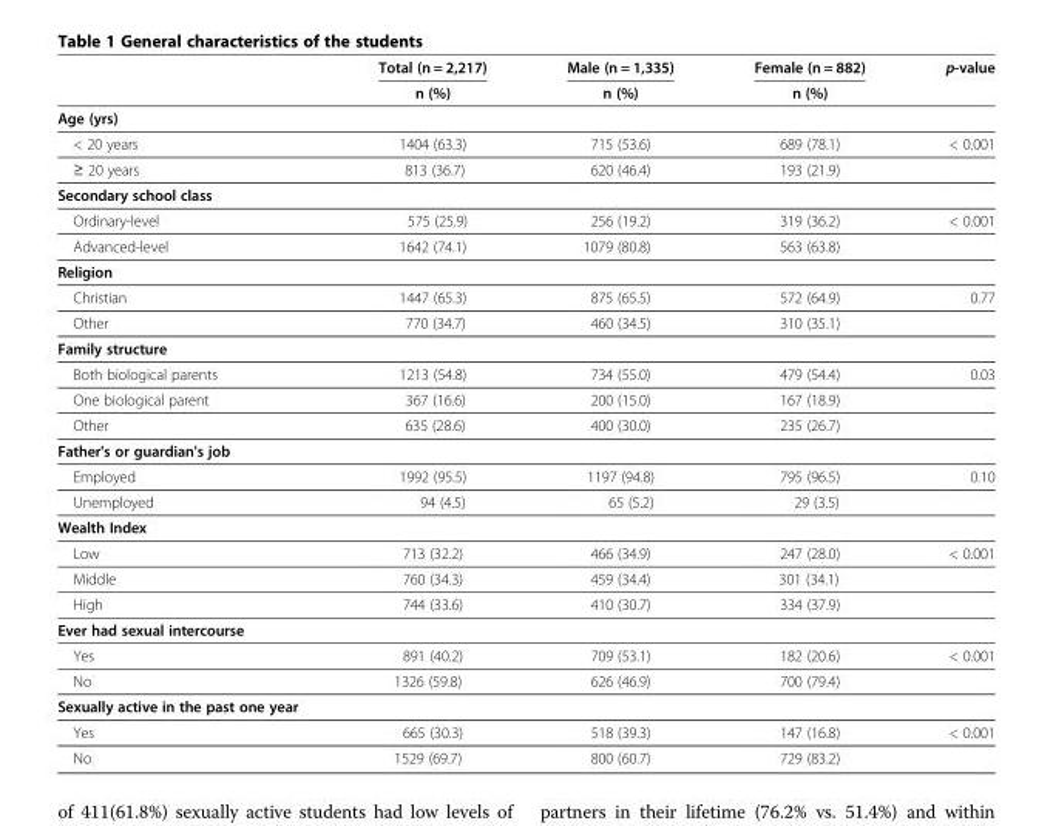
<table><thead><tr><td rowspan="2"></td><td rowspan="2">Total (n = 2,217) n (%)</td><td rowspan="2">Male (n = 1,335) n (%)</td><td rowspan="2">Female (n = 882) n (%)</td><td rowspan="2">p-value</td></tr><tr></tr></thead><tbody><tr><td colspan="5">Age (yrs)</td></tr><tr><td>&lt; 20 years</td><td>1404 (63.3)</td><td>715 (53.6)</td><td>689 (78.1)</td><td>&lt; 0.001</td></tr><tr><td>≥ 20 years</td><td>813 (36.7)</td><td>620 (46.4)</td><td>193 (21.9)</td><td></td></tr><tr><td colspan="5">Secondary school class</td></tr><tr><td>Ordinary-level</td><td>575 (25.9)</td><td>256 (19.2)</td><td>319 (36.2)</td><td>&lt; 0.001</td></tr><tr><td>Advanced-level</td><td>1642 (74.1)</td><td>1079 (80.8)</td><td>563 (63.8)</td><td></td></tr><tr><td colspan="5">Religion</td></tr><tr><td>Christian</td><td>1447 (65.3)</td><td>875 (65.5)</td><td>572 (64.9)</td><td>0.77</td></tr><tr><td>Other</td><td>770 (34.7)</td><td>460 (34.5)</td><td>310 (35.1)</td><td></td></tr><tr><td colspan="5">Family structure</td></tr><tr><td>Both biological parents</td><td>1213 (54.8)</td><td>734 (55.0)</td><td>479 (54.4)</td><td>0.03</td></tr><tr><td>One biological parent</td><td>367 (16.6)</td><td>200 (15.0)</td><td>167 (18.9)</td><td></td></tr><tr><td>Other</td><td>635 (28.6)</td><td>400 (30.0)</td><td>235 (26.7)</td><td></td></tr><tr><td colspan="5">Father&#x27;s or guardian&#x27;s job</td></tr><tr><td>Employed</td><td>1992 (95.5)</td><td>1197 (94.8)</td><td>795 (96.5)</td><td>0.10</td></tr><tr><td>Unemployed</td><td>94 (4.5)</td><td>65 (5.2)</td><td>29 (3.5)</td><td></td></tr><tr><td colspan="5">Wealth Index</td></tr><tr><td>Low</td><td>713 (32.2)</td><td>466 (34.9)</td><td>247 (28.0)</td><td>&lt; 0.001</td></tr><tr><td>Middle</td><td>760 (34.3)</td><td>459 (34.4)</td><td>301 (34.1)</td><td></td></tr><tr><td>High</td><td>744 (33.6)</td><td>410 (30.7)</td><td>334 (37.9)</td><td></td></tr><tr><td colspan="5">Ever had sexual intercourse</td></tr><tr><td>Yes</td><td>891 (40.2)</td><td>709 (53.1)</td><td>182 (20.6)</td><td>&lt; 0.001</td></tr><tr><td>No</td><td>1326 (59.8)</td><td>626 (46.9)</td><td>700 (79.4)</td><td></td></tr><tr><td colspan="5">Sexually active in the past one year</td></tr><tr><td>Yes</td><td>665 (30.3)</td><td>518 (39.3)</td><td>147 (16.8)</td><td>&lt; 0.001</td></tr><tr><td>No</td><td>1529 (69.7)</td><td>800 (60.7)</td><td>729 (83.2)</td><td></td></tr></tbody></table>